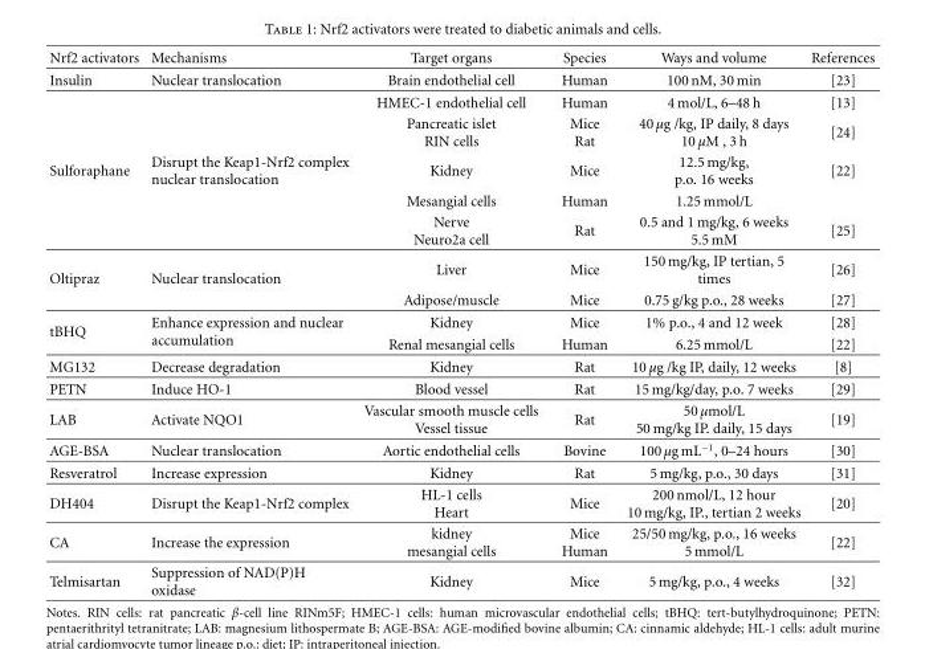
<table><thead><tr><td>Nrf2 activators</td><td>Mechanisms</td><td>Target organs</td><td>Species</td><td>Ways and volume</td><td>References</td></tr></thead><tbody><tr><td rowspan="3">Insulin</td><td>Nuclear translocation</td><td>Brain endothelial cell</td><td>Human</td><td>100 nM, 30 min</td><td>[23]</td></tr><tr><td></td><td>HMEC-1 endothelial cell</td><td>Human</td><td>4 mol/L, 6–48 h</td><td>[13]</td></tr><tr><td></td><td>Pancreatic islet RIN cells</td><td>Mice Rat</td><td>40 μg /kg, IP daily, 8 days 10 μM , 3 h</td><td>[24]</td></tr><tr><td rowspan="3">Sulforaphane</td><td>Disrupt the Keap1-Nrf2 complex nuclear translocation</td><td>Kidney</td><td>Mice</td><td>12.5 mg/kg, p.o. 16 weeks</td><td>[22]</td></tr><tr><td></td><td>Mesangial cells</td><td>Human</td><td>1.25 mmol/L</td><td></td></tr><tr><td></td><td>Nerve Neuro2a cell</td><td>Rat</td><td>0.5 and 1 mg/kg, 6 weeks 5.5 mM</td><td>[25]</td></tr><tr><td rowspan="2">Oltipraz</td><td rowspan="2">Nuclear translocation</td><td>Liver</td><td>Mice</td><td>150 mg/kg, IP tertian, 5 times</td><td>[26]</td></tr><tr><td>Adipose/muscle</td><td>Mice</td><td>0.75 g/kg p.o., 28 weeks</td><td>[27]</td></tr><tr><td rowspan="2">tBHQ</td><td rowspan="2">Enhance expression and nuclear accumulation</td><td>Kidney</td><td>Mice</td><td>1% p.o., 4 and 12 week</td><td>[28]</td></tr><tr><td>Renal mesangial cells</td><td>Human</td><td>6.25 mmol/L</td><td>[22]</td></tr><tr><td>MG132</td><td>Decrease degradation</td><td>Kidney</td><td>Rat</td><td>10 μg /kg IP, daily, 12 weeks</td><td>[8]</td></tr><tr><td>PETN</td><td>Induce HO-1</td><td>Blood vessel</td><td>Rat</td><td>15 mg/kg/day, p.o. 7 weeks</td><td>[29]</td></tr><tr><td>LAB</td><td>Activate NQO1</td><td>Vascular smooth muscle cells Vessel tissue</td><td>Rat</td><td>50 μmol/L 50 mg/kg IP. daily, 15 days</td><td>[19]</td></tr><tr><td>AGE-BSA</td><td>Nuclear translocation</td><td>Aortic endothelial cells</td><td>Bovine</td><td>100 μg mL<sup>−1</sup>, 0–24 hours</td><td>[30]</td></tr><tr><td>Resveratrol</td><td>Increase expression</td><td>Kidney</td><td>Rat</td><td>5 mg/kg, p.o., 30 days</td><td>[31]</td></tr><tr><td>DH404</td><td>Disrupt the Keap1-Nrf2 complex</td><td>HL-1 cells Heart</td><td>Mice</td><td>200 nmol/L, 12 hour 10 mg/kg, IP., tertian 2 weeks</td><td>[20]</td></tr><tr><td>CA</td><td>Increase the expression</td><td>kidney mesangial cells</td><td>Mice Human</td><td>25/50 mg/kg, p.o., 16 weeks 5 mmol/L</td><td>[22]</td></tr><tr><td>Telmisartan</td><td>Suppression of NAD(P)H oxidase</td><td>Kidney</td><td>Mice</td><td>5 mg/kg, p.o., 4 weeks</td><td>[32]</td></tr></tbody></table>